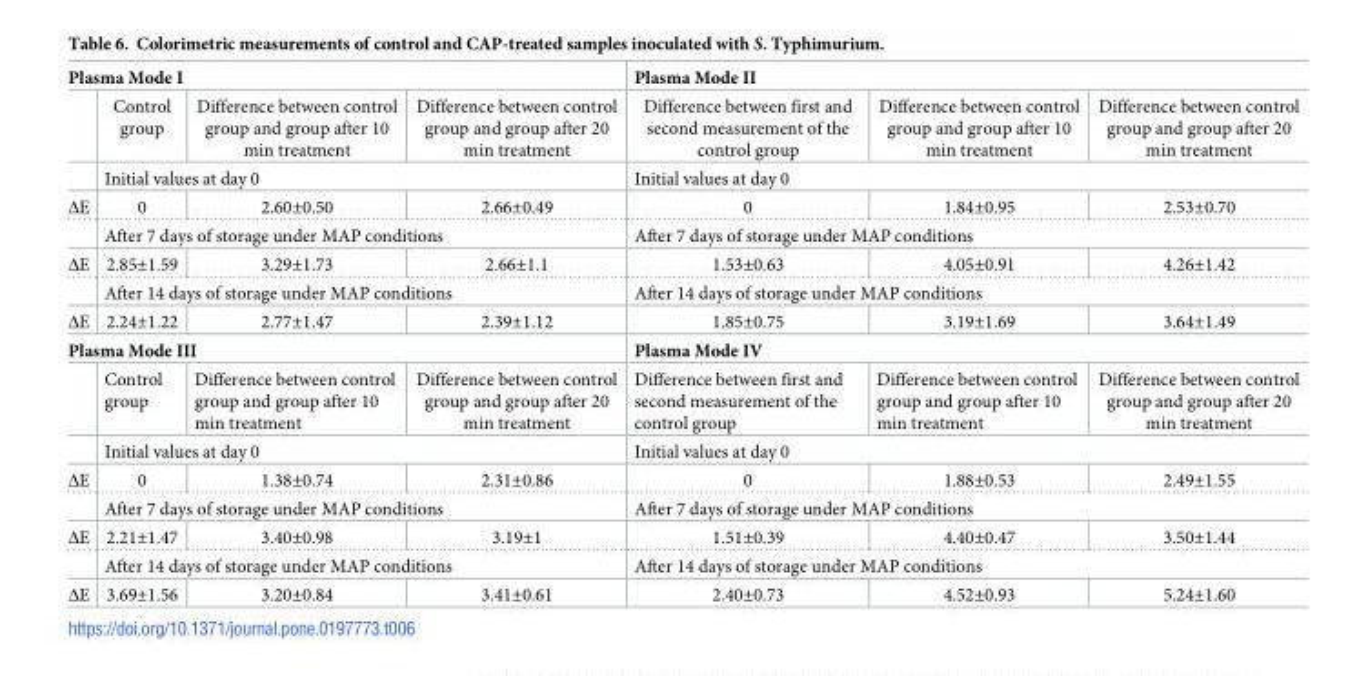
<table><tbody><tr><td colspan="4">Plasma Mode I</td><td colspan="3">Plasma Mode II</td></tr><tr><td></td><td>Control group</td><td>Difference between control group and group after 10 min treatment</td><td>Difference between control group and group after 20 min treatment</td><td>Difference between first and second measurement of the control group</td><td>Difference between control group and group after 10 min treatment</td><td>Difference between control group and group after 20 min treatment</td></tr><tr><td></td><td colspan="3">Initial values at day 0</td><td colspan="3">Initial values at day 0</td></tr><tr><td rowspan="2">ΔE</td><td>0</td><td>2.60±0.50</td><td>2.66±0.49</td><td>0</td><td>1.84±0.95</td><td>2.53±0.70</td></tr><tr><td colspan="3">After 7 days of storage under MAP conditions</td><td colspan="3">After 7 days of storage under MAP conditions</td></tr><tr><td rowspan="2">ΔE</td><td>2.85±1.59</td><td>3.29±1.73</td><td>2.66±1.1</td><td>1.53±0.63</td><td>4.05±0.91</td><td>4.26±1.42</td></tr><tr><td colspan="3">After 14 days of storage under MAP conditions</td><td colspan="3">After 14 days of storage under MAP conditions</td></tr><tr><td>ΔE</td><td>2.24±1.22</td><td>2.77±1.47</td><td>2.39±1.12</td><td>1.85±0.75</td><td>3.19±1.69</td><td>3.64±1.49</td></tr><tr><td colspan="4">Plasma Mode III</td><td colspan="3">Plasma Mode IV</td></tr><tr><td></td><td>Control group</td><td>Difference between control group and group after 10 min treatment</td><td>Difference between control group and group after 20 min treatment</td><td>Difference between first and second measurement of the control group</td><td>Difference between control group and group after 10 min treatment</td><td>Difference between control group and group after 20 min treatment</td></tr><tr><td></td><td colspan="3">Initial values at day 0</td><td colspan="3">Initial values at day 0</td></tr><tr><td rowspan="2">ΔE</td><td>0</td><td>1.38±0.74</td><td>2.31±0.86</td><td>0</td><td>1.88±0.53</td><td>2.49±1.55</td></tr><tr><td colspan="3">After 7 days of storage under MAP conditions</td><td colspan="3">After 7 days of storage under MAP conditions</td></tr><tr><td rowspan="2">ΔE</td><td>2.21±1.47</td><td>3.40±0.98</td><td>3.19±1</td><td>1.51±0.39</td><td>4.40±0.47</td><td>3.50±1.44</td></tr><tr><td colspan="3">After 14 days of storage under MAP conditions</td><td colspan="3">After 14 days of storage under MAP conditions</td></tr><tr><td>ΔE</td><td>3.69±1.56</td><td>3.20±0.84</td><td>3.41±0.61</td><td>2.40±0.73</td><td>4.52±0.93</td><td>5.24±1.60</td></tr></tbody></table>